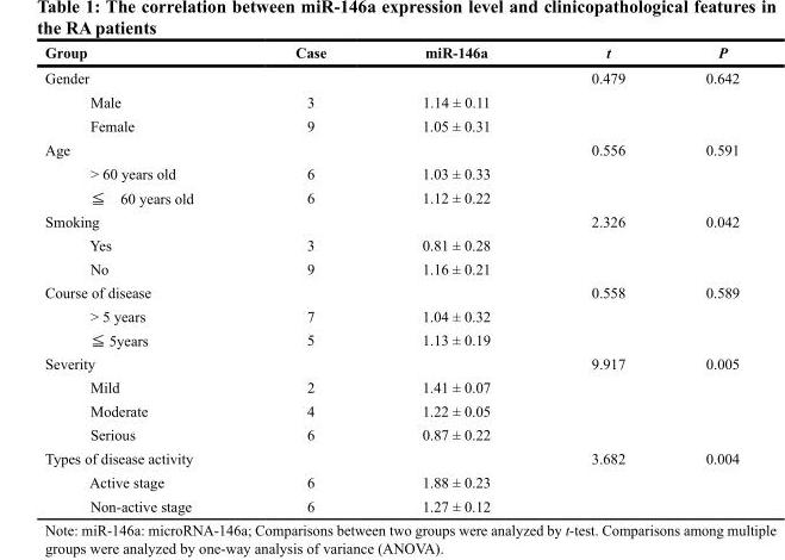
<table><thead><tr><td>Group</td><td>Case</td><td>miR-146a</td><td>t</td><td>P</td></tr></thead><tbody><tr><td>Gender</td><td></td><td></td><td>0.479</td><td>0.642</td></tr><tr><td>Male</td><td>3</td><td>1.14 ± 0.11</td><td></td><td></td></tr><tr><td>Female</td><td>9</td><td>1.05 ± 0.31</td><td></td><td></td></tr><tr><td>Age</td><td></td><td></td><td>0.556</td><td>0.591</td></tr><tr><td>&gt; 60 years old</td><td>6</td><td>1.03 ± 0.33</td><td></td><td></td></tr><tr><td>≦ 60 years old</td><td>6</td><td>1.12 ± 0.22</td><td></td><td></td></tr><tr><td>Smoking</td><td></td><td></td><td>2.326</td><td>0.042</td></tr><tr><td>Yes</td><td>3</td><td>0.81 ± 0.28</td><td></td><td></td></tr><tr><td>No</td><td>9</td><td>1.16 ± 0.21</td><td></td><td></td></tr><tr><td>Course of disease</td><td></td><td></td><td>0.558</td><td>0.589</td></tr><tr><td>&gt; 5 years</td><td>7</td><td>1.04 ± 0.32</td><td></td><td></td></tr><tr><td>≦ 5years</td><td>5</td><td>1.13 ± 0.19</td><td></td><td></td></tr><tr><td>Severity</td><td></td><td></td><td>9.917</td><td>0.005</td></tr><tr><td>Mild</td><td>2</td><td>1.41 ± 0.07</td><td></td><td></td></tr><tr><td>Moderate</td><td>4</td><td>1.22 ± 0.05</td><td></td><td></td></tr><tr><td>Serious</td><td>6</td><td>0.87 ± 0.22</td><td></td><td></td></tr><tr><td>Types of disease activity</td><td></td><td></td><td>3.682</td><td>0.004</td></tr><tr><td>Active stage</td><td>6</td><td>1.88 ± 0.23</td><td></td><td></td></tr><tr><td>Non-active stage</td><td>6</td><td>1.27 ± 0.12</td><td></td><td></td></tr></tbody></table>